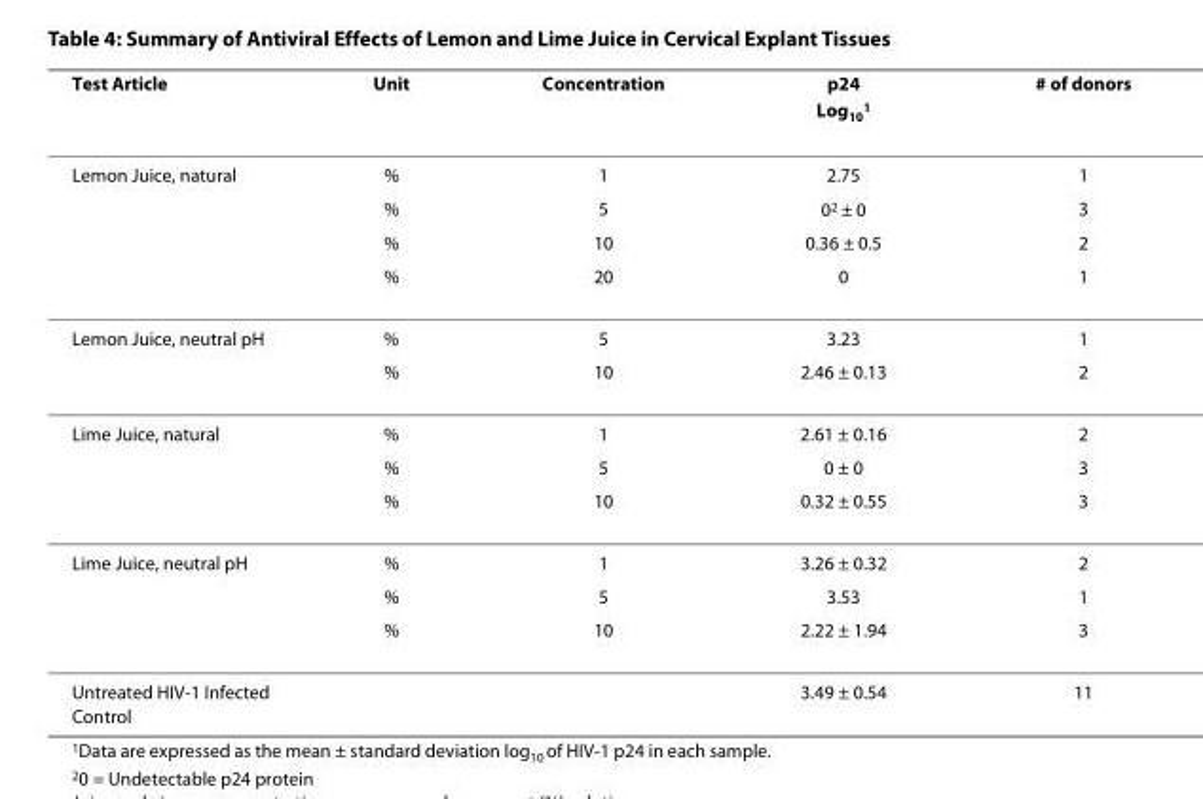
<table><thead><tr><td>Test Article</td><td>Unit</td><td>Concentration</td><td>p24 Log<sub>10</sub><sup>1</sup></td><td># of donors</td></tr></thead><tbody><tr><td rowspan="4">Lemon Juice, natural</td><td>%</td><td>1</td><td>2.75</td><td>1</td></tr><tr><td>%</td><td>5</td><td>0<sup>2</sup> ± 0</td><td>3</td></tr><tr><td>%</td><td>10</td><td>0.36 ± 0.5</td><td>2</td></tr><tr><td>%</td><td>20</td><td>0</td><td>1</td></tr><tr><td rowspan="2">Lemon Juice, neutral pH</td><td>%</td><td>5</td><td>3.23</td><td>1</td></tr><tr><td>%</td><td>10</td><td>2.46 ± 0.13</td><td>2</td></tr><tr><td rowspan="3">Lime Juice, natural</td><td>%</td><td>1</td><td>2.61 ± 0.16</td><td>2</td></tr><tr><td>%</td><td>5</td><td>0 ± 0</td><td>3</td></tr><tr><td>%</td><td>10</td><td>0.32 ± 0.55</td><td>3</td></tr><tr><td rowspan="3">Lime Juice, neutral pH</td><td>%</td><td>1</td><td>3.26 ± 0.32</td><td>2</td></tr><tr><td>%</td><td>5</td><td>3.53</td><td>1</td></tr><tr><td>%</td><td>10</td><td>2.22 ± 1.94</td><td>3</td></tr><tr><td>Untreated HIV-1 Infected Control</td><td></td><td></td><td>3.49 ± 0.54</td><td>11</td></tr></tbody></table>